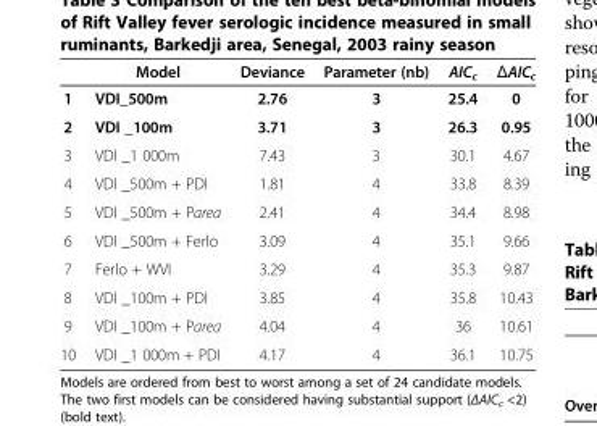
<table><thead><tr><td></td><td>Model</td><td>Deviance</td><td>Parameter (nb)</td><td>AIC<sub>c</sub></td><td>ΔAIC<sub>c</sub></td></tr></thead><tbody><tr><td>1</td><td>VDI_500m</td><td>2.76</td><td>3</td><td>25.4</td><td>0</td></tr><tr><td>2</td><td>VDI _100m</td><td>3.71</td><td>3</td><td>26.3</td><td>0.95</td></tr><tr><td>3</td><td>VDI _1 000m</td><td>7.43</td><td>3</td><td>30.1</td><td>4.67</td></tr><tr><td>4</td><td>VDI _500m + PDI</td><td>1.81</td><td>4</td><td>33.8</td><td>8.39</td></tr><tr><td>5</td><td>VDI _500m + Parea</td><td>2.41</td><td>4</td><td>34.4</td><td>8.98</td></tr><tr><td>6</td><td>VDI _500m + Ferlo</td><td>3.09</td><td>4</td><td>35.1</td><td>9.66</td></tr><tr><td>7</td><td>Ferlo + WVI</td><td>3.29</td><td>4</td><td>35.3</td><td>9.87</td></tr><tr><td>8</td><td>VDI _100m + PDI</td><td>3.85</td><td>4</td><td>35.8</td><td>10.43</td></tr><tr><td>9</td><td>VDI _100m + Parea</td><td>4.04</td><td>4</td><td>36</td><td>10.61</td></tr><tr><td>10</td><td>VDI _1 000m + PDI</td><td>4.17</td><td>4</td><td>36.1</td><td>10.75</td></tr></tbody></table>